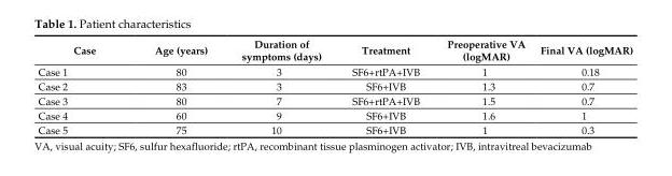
<table><thead><tr><td>Case</td><td>Age (years)</td><td>Duration of symptoms (days)</td><td>Treatment</td><td>Preoperative VA (logMAR)</td><td>Final VA (logMAR)</td></tr></thead><tbody><tr><td>Case 1</td><td>80</td><td>3</td><td>SF6+rtPA+IVB</td><td>1</td><td>0.18</td></tr><tr><td>Case 2</td><td>83</td><td>3</td><td>SF6+IVB</td><td>1.3</td><td>0.7</td></tr><tr><td>Case 3</td><td>80</td><td>7</td><td>SF6+rtPA+IVB</td><td>1.5</td><td>0.7</td></tr><tr><td>Case 4</td><td>60</td><td>9</td><td>SF6+IVB</td><td>1.6</td><td>1</td></tr><tr><td>Case 5</td><td>75</td><td>10</td><td>SF6+IVB</td><td>1</td><td>0.3</td></tr></tbody></table>